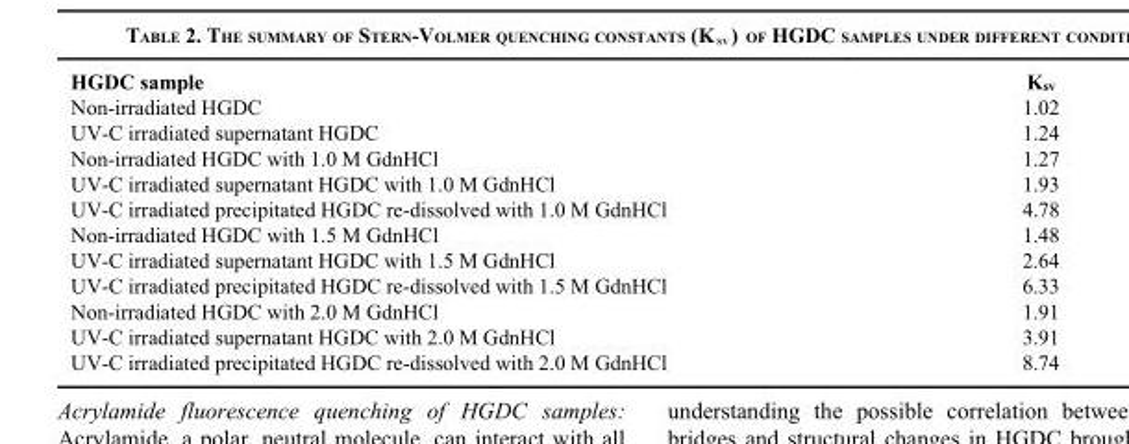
<table><thead><tr><td>HGDC sample</td><td>K<sub>sv</sub></td></tr></thead><tbody><tr><td>Non-irradiated HGDC</td><td>1.02</td></tr><tr><td>UV-C irradiated supernatant HGDC</td><td>1.24</td></tr><tr><td>Non-irradiated HGDC with 1.0 M GdnHCl</td><td>1.27</td></tr><tr><td>UV-C irradiated supernatant HGDC with 1.0 M GdnHCl</td><td>1.93</td></tr><tr><td>UV-C irradiated precipitated HGDC re-dissolved with 1.0 M GdnHCl</td><td>4.78</td></tr><tr><td>Non-irradiated HGDC with 1.5 M GdnHCl</td><td>1.48</td></tr><tr><td>UV-C irradiated supernatant HGDC with 1.5 M GdnHCl</td><td>2.64</td></tr><tr><td>UV-C irradiated precipitated HGDC re-dissolved with 1.5 M GdnHCl</td><td>6.33</td></tr><tr><td>Non-irradiated HGDC with 2.0 M GdnHCl</td><td>1.91</td></tr><tr><td>UV-C irradiated supernatant HGDC with 2.0 M GdnHCl</td><td>3.91</td></tr><tr><td>UV-C irradiated precipitated HGDC re-dissolved with 2.0 M GdnHCl</td><td>8.74</td></tr></tbody></table>